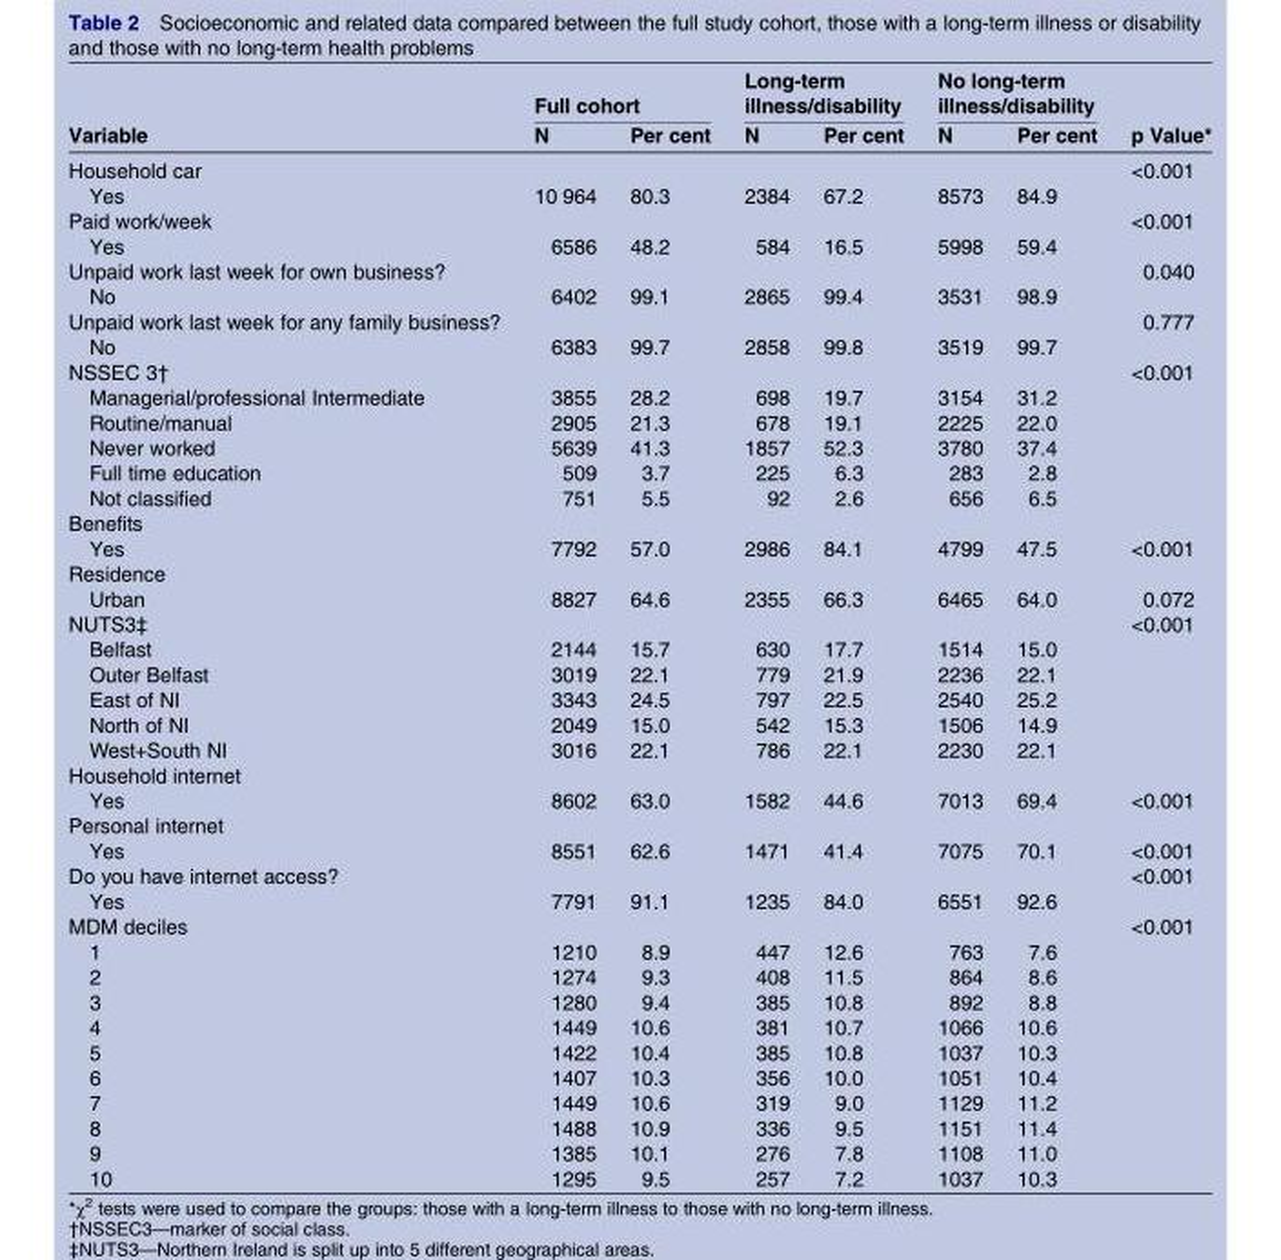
<table><thead><tr><td rowspan="2">Variable</td><td colspan="2">Full cohort</td><td colspan="2">Long-term illness/disability</td><td colspan="2">No long-term illness/disability</td><td rowspan="2">p Value*</td></tr><tr><td>N</td><td>Per cent</td><td>N</td><td>Per cent</td><td>N</td><td>Per cent</td></tr></thead><tbody><tr><td colspan="7">Household car</td><td rowspan="2">&lt;0.001</td></tr><tr><td>Yes</td><td>10 964</td><td>80.3</td><td>2384</td><td>67.2</td><td>8573</td><td>84.9</td></tr><tr><td colspan="7">Paid work/week</td><td rowspan="2">&lt;0.001</td></tr><tr><td>Yes</td><td>6586</td><td>48.2</td><td>584</td><td>16.5</td><td>5998</td><td>59.4</td></tr><tr><td>Unpaid work last week for own business?</td><td></td><td></td><td></td><td></td><td></td><td></td><td>0.040</td></tr><tr><td>No</td><td>6402</td><td>99.1</td><td>2865</td><td>99.4</td><td>3531</td><td>98.9</td><td></td></tr><tr><td>Unpaid work last week for any family business?</td><td></td><td></td><td></td><td></td><td></td><td></td><td>0.777</td></tr><tr><td>No</td><td>6383</td><td>99.7</td><td>2858</td><td>99.8</td><td>3519</td><td>99.7</td><td></td></tr><tr><td>NSSEC 3†</td><td></td><td></td><td></td><td></td><td></td><td></td><td>&lt;0.001</td></tr><tr><td>Managerial/professional Intermediate</td><td>3855</td><td>28.2</td><td>698</td><td>19.7</td><td>3154</td><td>31.2</td><td rowspan="5"></td></tr><tr><td>Routine/manual</td><td>2905</td><td>21.3</td><td>678</td><td>19.1</td><td>2225</td><td>22.0</td></tr><tr><td>Never worked</td><td>5639</td><td>41.3</td><td>1857</td><td>52.3</td><td>3780</td><td>37.4</td></tr><tr><td>Full time education</td><td>509</td><td>3.7</td><td>225</td><td>6.3</td><td>283</td><td>2.8</td></tr><tr><td>Not classified</td><td>751</td><td>5.5</td><td>92</td><td>2.6</td><td>656</td><td>6.5</td></tr><tr><td colspan="8">Benefits</td></tr><tr><td>Yes</td><td>7792</td><td>57.0</td><td>2986</td><td>84.1</td><td>4799</td><td>47.5</td><td>&lt;0.001</td></tr><tr><td colspan="8">Residence</td></tr><tr><td>Urban</td><td>8827</td><td>64.6</td><td>2355</td><td>66.3</td><td>6465</td><td>64.0</td><td>0.072</td></tr><tr><td>NUTS3‡</td><td></td><td></td><td></td><td></td><td></td><td></td><td>&lt;0.001</td></tr><tr><td>Belfast</td><td>2144</td><td>15.7</td><td>630</td><td>17.7</td><td>1514</td><td>15.0</td><td></td></tr><tr><td>Outer Belfast</td><td>3019</td><td>22.1</td><td>779</td><td>21.9</td><td>2236</td><td>22.1</td><td></td></tr><tr><td>East of NI</td><td>3343</td><td>24.5</td><td>797</td><td>22.5</td><td>2540</td><td>25.2</td><td></td></tr><tr><td>North of NI</td><td>2049</td><td>15.0</td><td>542</td><td>15.3</td><td>1506</td><td>14.9</td><td></td></tr><tr><td>West+South NI</td><td>3016</td><td>22.1</td><td>786</td><td>22.1</td><td>2230</td><td>22.1</td><td></td></tr><tr><td colspan="8">Household internet</td></tr><tr><td>Yes</td><td>8602</td><td>63.0</td><td>1582</td><td>44.6</td><td>7013</td><td>69.4</td><td>&lt;0.001</td></tr><tr><td colspan="8">Personal internet</td></tr><tr><td>Yes</td><td>8551</td><td>62.6</td><td>1471</td><td>41.4</td><td>7075</td><td>70.1</td><td>&lt;0.001</td></tr><tr><td>Do you have internet access?</td><td></td><td></td><td></td><td></td><td></td><td></td><td>&lt;0.001</td></tr><tr><td>Yes</td><td>7791</td><td>91.1</td><td>1235</td><td>84.0</td><td>6551</td><td>92.6</td><td></td></tr><tr><td>MDM deciles</td><td></td><td></td><td></td><td></td><td></td><td></td><td>&lt;0.001</td></tr><tr><td>1</td><td>1210</td><td>8.9</td><td>447</td><td>12.6</td><td>763</td><td>7.6</td><td rowspan="10"></td></tr><tr><td>2</td><td>1274</td><td>9.3</td><td>408</td><td>11.5</td><td>864</td><td>8.6</td></tr><tr><td>3</td><td>1280</td><td>9.4</td><td>385</td><td>10.8</td><td>892</td><td>8.8</td></tr><tr><td>4</td><td>1449</td><td>10.6</td><td>381</td><td>10.7</td><td>1066</td><td>10.6</td></tr><tr><td>5</td><td>1422</td><td>10.4</td><td>385</td><td>10.8</td><td>1037</td><td>10.3</td></tr><tr><td>6</td><td>1407</td><td>10.3</td><td>356</td><td>10.0</td><td>1051</td><td>10.4</td></tr><tr><td>7</td><td>1449</td><td>10.6</td><td>319</td><td>9.0</td><td>1129</td><td>11.2</td></tr><tr><td>8</td><td>1488</td><td>10.9</td><td>336</td><td>9.5</td><td>1151</td><td>11.4</td></tr><tr><td>9</td><td>1385</td><td>10.1</td><td>276</td><td>7.8</td><td>1108</td><td>11.0</td></tr><tr><td>10</td><td>1295</td><td>9.5</td><td>257</td><td>7.2</td><td>1037</td><td>10.3</td></tr></tbody></table>